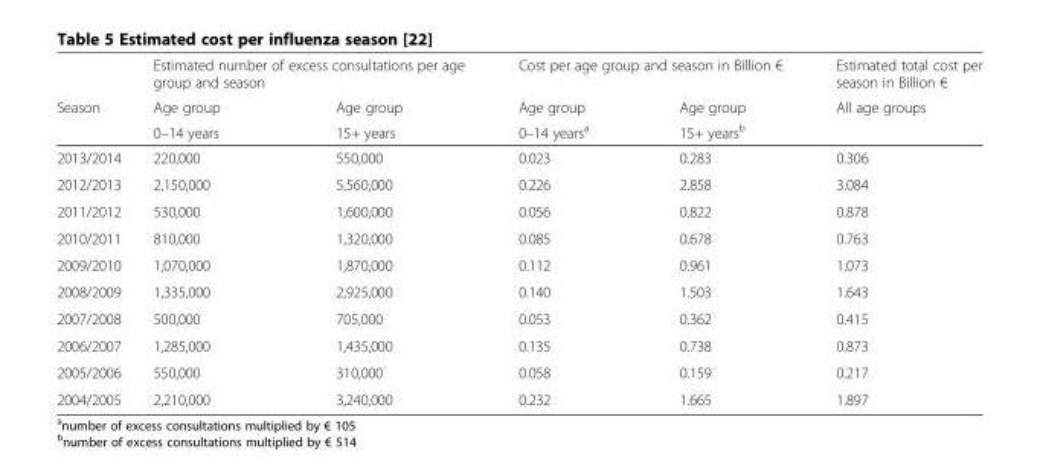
<table><thead><tr><td rowspan="3">Season</td><td colspan="2">Estimated number of excess consultations per age group and season</td><td colspan="2">Cost per age group and season in Billion €</td><td rowspan="3">Estimated total cost per season in Billion € All age groups</td></tr><tr><td rowspan="2">Age group 0–14 years</td><td rowspan="2">Age group 15+ years</td><td rowspan="2">Age group 0–14 years<sup>a</sup></td><td rowspan="2">Age group 15+ years<sup>b</sup></td></tr><tr></tr></thead><tbody><tr><td>2013/2014</td><td>220,000</td><td>550,000</td><td>0.023</td><td>0.283</td><td>0.306</td></tr><tr><td>2012/2013</td><td>2,150,000</td><td>5,560,000</td><td>0.226</td><td>2.858</td><td>3.084</td></tr><tr><td>2011/2012</td><td>530,000</td><td>1,600,000</td><td>0.056</td><td>0.822</td><td>0.878</td></tr><tr><td>2010/2011</td><td>810,000</td><td>1,320,000</td><td>0.085</td><td>0.678</td><td>0.763</td></tr><tr><td>2009/2010</td><td>1,070,000</td><td>1,870,000</td><td>0.112</td><td>0.961</td><td>1.073</td></tr><tr><td>2008/2009</td><td>1,335,000</td><td>2,925,000</td><td>0.140</td><td>1.503</td><td>1.643</td></tr><tr><td>2007/2008</td><td>500,000</td><td>705,000</td><td>0.053</td><td>0.362</td><td>0.415</td></tr><tr><td>2006/2007</td><td>1,285,000</td><td>1,435,000</td><td>0.135</td><td>0.738</td><td>0.873</td></tr><tr><td>2005/2006</td><td>550,000</td><td>310,000</td><td>0.058</td><td>0.159</td><td>0.217</td></tr><tr><td>2004/2005</td><td>2,210,000</td><td>3,240,000</td><td>0.232</td><td>1.665</td><td>1.897</td></tr></tbody></table>